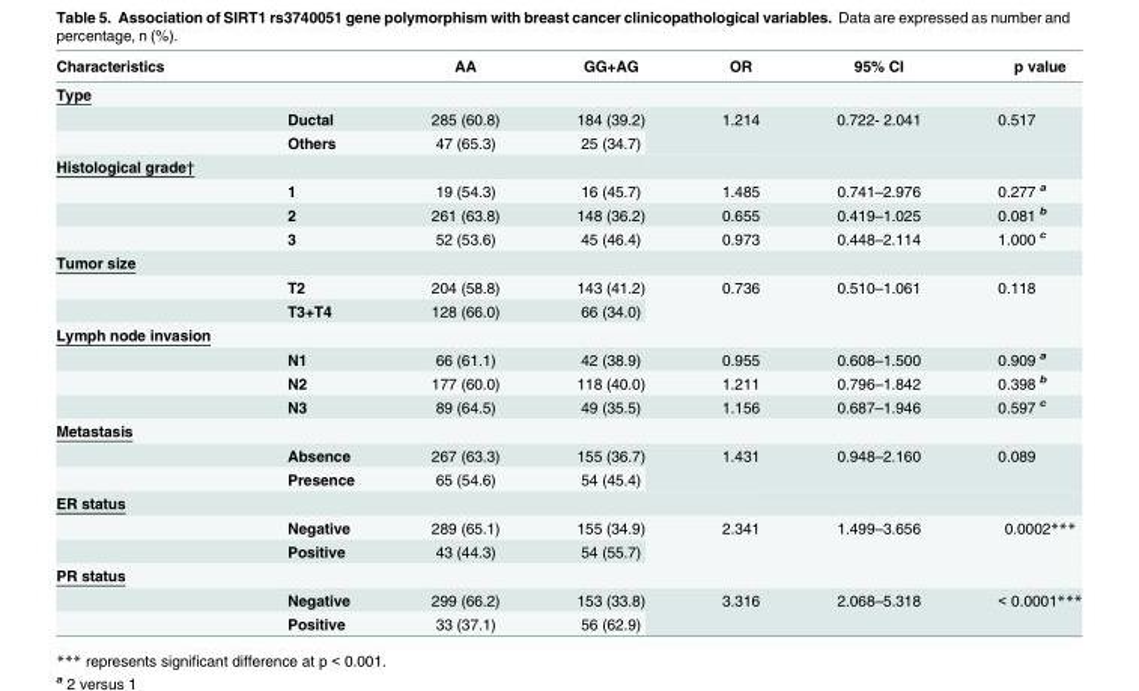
<table><thead><tr><td>Characteristics</td><td></td><td>AA</td><td>GG+AG</td><td>OR</td><td>95% CI</td><td>p value</td></tr></thead><tbody><tr><td colspan="7">Type</td></tr><tr><td></td><td>Ductal</td><td>285 (60.8)</td><td>184 (39.2)</td><td rowspan="2">1.214</td><td rowspan="2">0.722- 2.041</td><td rowspan="2">0.517</td></tr><tr><td></td><td>Others</td><td>47 (65.3)</td><td>25 (34.7)</td></tr><tr><td colspan="7">Histological grade†</td></tr><tr><td></td><td>1</td><td>19 (54.3)</td><td>16 (45.7)</td><td>1.485</td><td>0.741–2.976</td><td>0.277 <sup>a</sup></td></tr><tr><td></td><td>2</td><td>261 (63.8)</td><td>148 (36.2)</td><td>0.655</td><td>0.419–1.025</td><td>0.081 <sup>b</sup></td></tr><tr><td></td><td>3</td><td>52 (53.6)</td><td>45 (46.4)</td><td>0.973</td><td>0.448–2.114</td><td>1.000 <sup>c</sup></td></tr><tr><td colspan="7">Tumor size</td></tr><tr><td></td><td>T2</td><td>204 (58.8)</td><td>143 (41.2)</td><td rowspan="2">0.736</td><td rowspan="2">0.510–1.061</td><td rowspan="2">0.118</td></tr><tr><td></td><td>T3+T4</td><td>128 (66.0)</td><td>66 (34.0)</td></tr><tr><td colspan="7">Lymph node invasion</td></tr><tr><td></td><td>N1</td><td>66 (61.1)</td><td>42 (38.9)</td><td>0.955</td><td>0.608–1.500</td><td>0.909 <sup>a</sup></td></tr><tr><td></td><td>N2</td><td>177 (60.0)</td><td>118 (40.0)</td><td>1.211</td><td>0.796–1.842</td><td>0.398 <sup>b</sup></td></tr><tr><td></td><td>N3</td><td>89 (64.5)</td><td>49 (35.5)</td><td>1.156</td><td>0.687–1.946</td><td>0.597 <sup>c</sup></td></tr><tr><td colspan="7">Metastasis</td></tr><tr><td></td><td>Absence</td><td>267 (63.3)</td><td>155 (36.7)</td><td rowspan="2">1.431</td><td rowspan="2">0.948–2.160</td><td rowspan="2">0.089</td></tr><tr><td></td><td>Presence</td><td>65 (54.6)</td><td>54 (45.4)</td></tr><tr><td colspan="7">ER status</td></tr><tr><td></td><td>Negative</td><td>289 (65.1)</td><td>155 (34.9)</td><td rowspan="2">2.341</td><td rowspan="2">1.499–3.656</td><td rowspan="2">0.0002***</td></tr><tr><td></td><td>Positive</td><td>43 (44.3)</td><td>54 (55.7)</td></tr><tr><td colspan="7">PR status</td></tr><tr><td></td><td>Negative</td><td>299 (66.2)</td><td>153 (33.8)</td><td rowspan="2">3.316</td><td rowspan="2">2.068–5.318</td><td rowspan="2">&lt; 0.0001***</td></tr><tr><td></td><td>Positive</td><td>33 (37.1)</td><td>56 (62.9)</td></tr></tbody></table>